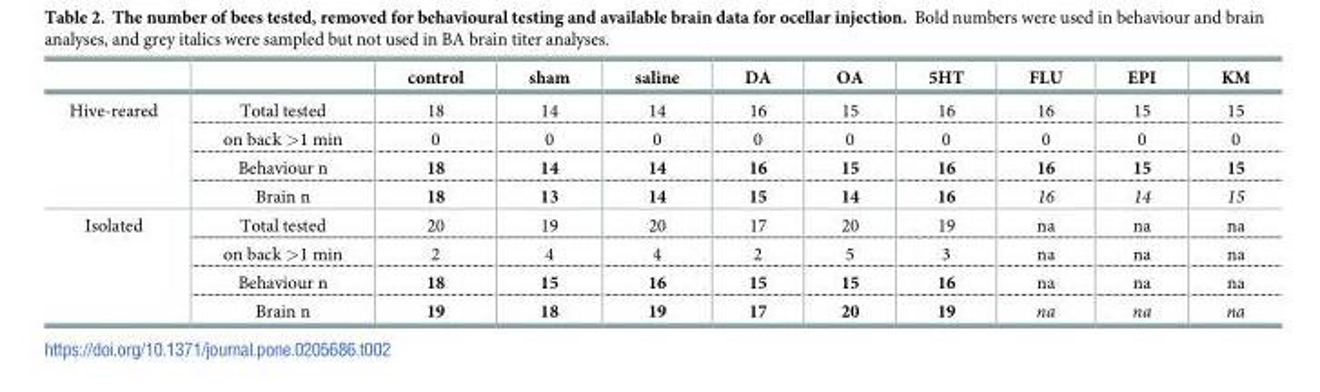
<table><thead><tr><td></td><td></td><td>control</td><td>sham</td><td>saline</td><td>DA</td><td>OA</td><td>5HT</td><td>FLU</td><td>EPI</td><td>KM</td></tr></thead><tbody><tr><td rowspan="4">Hive-reared</td><td>Total tested</td><td>18</td><td>14</td><td>14</td><td>16</td><td>15</td><td>16</td><td>16</td><td>15</td><td>15</td></tr><tr><td>on back &gt;1 min</td><td>0</td><td>0</td><td>0</td><td>0</td><td>0</td><td>0</td><td>0</td><td>0</td><td>0</td></tr><tr><td>Behaviour n</td><td>18</td><td>14</td><td>14</td><td>16</td><td>15</td><td>16</td><td>16</td><td>15</td><td>15</td></tr><tr><td>Brain n</td><td>18</td><td>13</td><td>14</td><td>15</td><td>14</td><td>16</td><td>16</td><td>14</td><td>15</td></tr><tr><td rowspan="4">Isolated</td><td>Total tested</td><td>20</td><td>19</td><td>20</td><td>17</td><td>20</td><td>19</td><td>na</td><td>na</td><td>na</td></tr><tr><td>on back &gt;1 min</td><td>2</td><td>4</td><td>4</td><td>2</td><td>5</td><td>3</td><td>na</td><td>na</td><td>na</td></tr><tr><td>Behaviour n</td><td>18</td><td>15</td><td>16</td><td>15</td><td>15</td><td>16</td><td>na</td><td>na</td><td>na</td></tr><tr><td>Brain n</td><td>19</td><td>18</td><td>19</td><td>17</td><td>20</td><td>19</td><td>na</td><td>na</td><td>na</td></tr></tbody></table>